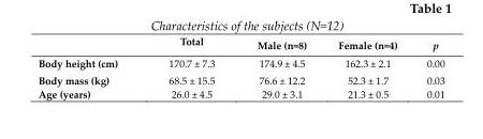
<table><thead><tr><td></td><td>Total</td><td>Male (n=8)</td><td>Female (n=4)</td><td>p</td></tr></thead><tbody><tr><td>Body height (cm)</td><td>170.7 ± 7.3</td><td>174.9 ± 4.5</td><td>162.3 ± 2.1</td><td>0.00</td></tr><tr><td>Body mass (kg)</td><td>68.5 ± 15.5</td><td>76.6 ± 12.2</td><td>52.3 ± 1.7</td><td>0.03</td></tr><tr><td>Age (years)</td><td>26.0 ± 4.5</td><td>29.0 ± 3.1</td><td>21.3 ± 0.5</td><td>0.01</td></tr></tbody></table>